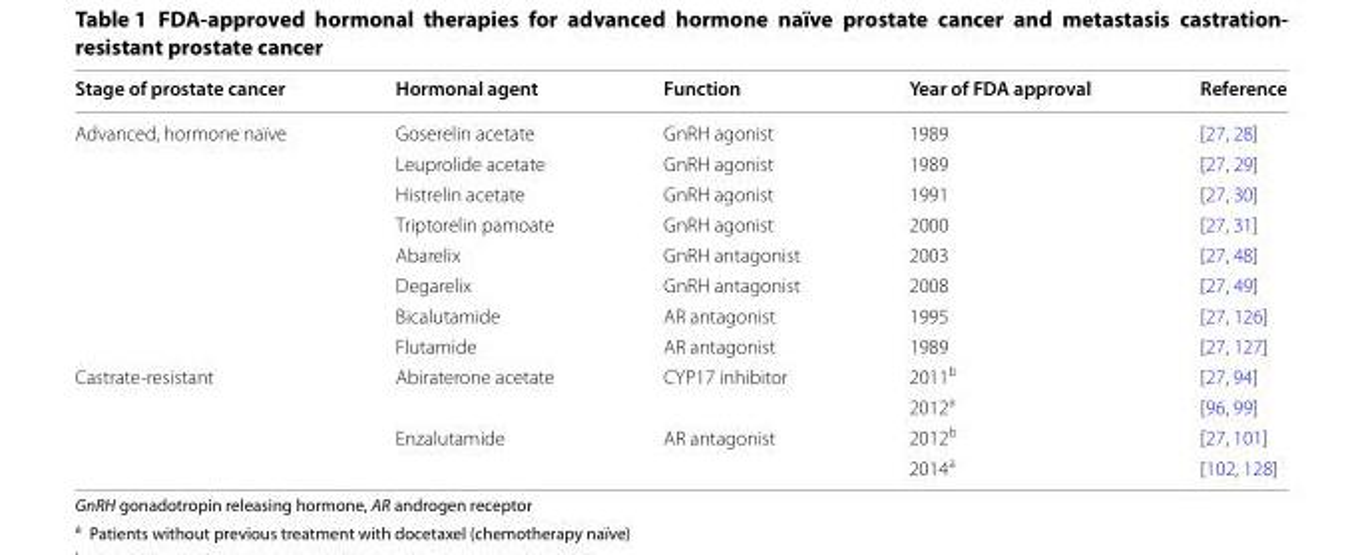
<table><thead><tr><td>Stage of prostate cancer</td><td>Hormonal agent</td><td>Function</td><td>Year of FDA approval</td><td>Reference</td></tr></thead><tbody><tr><td rowspan="8">Advanced, hormone naïve</td><td>Goserelin acetate</td><td>GnRH agonist</td><td>1989</td><td>[27, 28]</td></tr><tr><td>Leuprolide acetate</td><td>GnRH agonist</td><td>1989</td><td>[27, 29]</td></tr><tr><td>Histrelin acetate</td><td>GnRH agonist</td><td>1991</td><td>[27, 30]</td></tr><tr><td>Triptorelin pamoate</td><td>GnRH agonist</td><td>2000</td><td>[27, 31]</td></tr><tr><td>Abarelix</td><td>GnRH antagonist</td><td>2003</td><td>[27, 48]</td></tr><tr><td>Degarelix</td><td>GnRH antagonist</td><td>2008</td><td>[27, 49]</td></tr><tr><td>Bicalutamide</td><td>AR antagonist</td><td>1995</td><td>[27, 126]</td></tr><tr><td>Flutamide</td><td>AR antagonist</td><td>1989</td><td>[27, 127]</td></tr><tr><td rowspan="4">Castrate-resistant</td><td rowspan="2">Abiraterone acetate</td><td rowspan="2">CYP17 inhibitor</td><td>2011<sup>b</sup></td><td>[27, 94]</td></tr><tr><td>2012<sup>a</sup></td><td>[96, 99]</td></tr><tr><td rowspan="2">Enzalutamide</td><td rowspan="2">AR antagonist</td><td>2012<sup>b</sup></td><td>[27, 101]</td></tr><tr><td>2014<sup>a</sup></td><td>[102, 128]</td></tr></tbody></table>